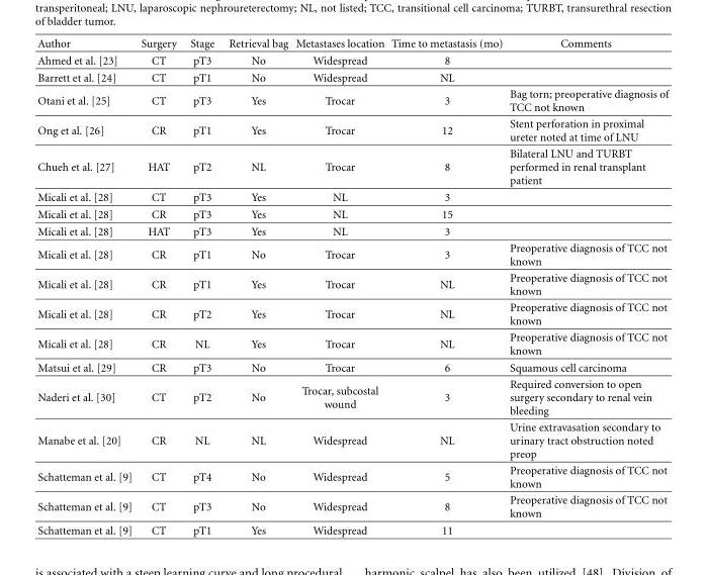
<table><thead><tr><td>Author</td><td>Surgery</td><td>Stage</td><td>Retrieval bag</td><td>Metastases location</td><td>Time to metastasis (mo)</td><td>Comments</td></tr></thead><tbody><tr><td>Ahmed et al. [23]</td><td>CT</td><td>pT3</td><td>No</td><td>Widespread</td><td>8</td><td></td></tr><tr><td>Barrett et al. [24]</td><td>CT</td><td>pT1</td><td>No</td><td>Widespread</td><td>NL</td><td></td></tr><tr><td>Otani et al. [25]</td><td>CT</td><td>pT3</td><td>Yes</td><td>Trocar</td><td>3</td><td>Bag torn; preoperative diagnosis of TCC not known</td></tr><tr><td>Ong et al. [26]</td><td>CR</td><td>pT1</td><td>Yes</td><td>Trocar</td><td>12</td><td>Stent perforation in proximal ureter noted at time of LNU</td></tr><tr><td>Chueh et al. [27]</td><td>HAT</td><td>pT2</td><td>NL</td><td>Trocar</td><td>8</td><td>Bilateral LNU and TURBT performed in renal transplant patient</td></tr><tr><td>Micali et al. [28]</td><td>CT</td><td>pT3</td><td>Yes</td><td>NL</td><td>3</td><td></td></tr><tr><td>Micali et al. [28]</td><td>CR</td><td>pT3</td><td>Yes</td><td>NL</td><td>15</td><td></td></tr><tr><td>Micali et al. [28]</td><td>HAT</td><td>pT3</td><td>Yes</td><td>NL</td><td>3</td><td></td></tr><tr><td>Micali et al. [28]</td><td>CR</td><td>pT1</td><td>No</td><td>Trocar</td><td>3</td><td>Preoperative diagnosis of TCC not known</td></tr><tr><td>Micali et al. [28]</td><td>CR</td><td>pT1</td><td>Yes</td><td>Trocar</td><td>NL</td><td>Preoperative diagnosis of TCC not known</td></tr><tr><td>Micali et al. [28]</td><td>CR</td><td>pT2</td><td>Yes</td><td>Trocar</td><td>NL</td><td>Preoperative diagnosis of TCC not known</td></tr><tr><td>Micali et al. [28]</td><td>CR</td><td>NL</td><td>Yes</td><td>Trocar</td><td>NL</td><td>Preoperative diagnosis of TCC not known</td></tr><tr><td>Matsui et al. [29]</td><td>CR</td><td>pT3</td><td>No</td><td>Trocar</td><td>6</td><td>Squamous cell carcinoma</td></tr><tr><td>Naderi et al. [30]</td><td>CT</td><td>pT2</td><td>No</td><td>Trocar, subcostal wound</td><td>3</td><td>Required conversion to open surgery secondary to renal vein bleeding</td></tr><tr><td>Manabe et al. [20]</td><td>CR</td><td>NL</td><td>NL</td><td>Widespread</td><td>NL</td><td>Urine extravasation secondary to urinary tract obstruction noted preop</td></tr><tr><td>Schatteman et al. [9]</td><td>CT</td><td>pT4</td><td>No</td><td>Widespread</td><td>5</td><td>Preoperative diagnosis of TCC not known</td></tr><tr><td>Schatteman et al. [9]</td><td>CT</td><td>pT3</td><td>No</td><td>Widespread</td><td>8</td><td>Preoperative diagnosis of TCC not known</td></tr><tr><td>Schatteman et al. [9]</td><td>CT</td><td>pT1</td><td>Yes</td><td>Widespread</td><td>11</td><td></td></tr></tbody></table>